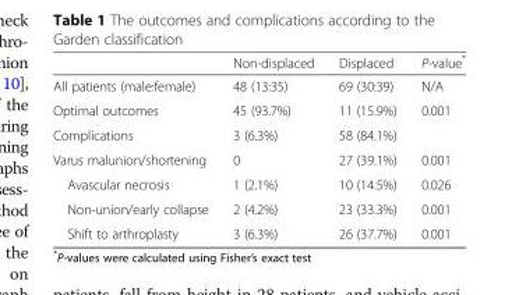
<table><thead><tr><td></td><td>Non-displaced</td><td>Displaced</td><td>P-value*</td></tr></thead><tbody><tr><td>All patients (male:female)</td><td>48 (13:35)</td><td>69 (30:39)</td><td>N/A</td></tr><tr><td>Optimal outcomes</td><td>45 (93.7%)</td><td>11 (15.9%)</td><td>0.001</td></tr><tr><td>Complications</td><td>3 (6.3%)</td><td>58 (84.1%)</td><td></td></tr><tr><td>Varus malunion/shortening</td><td>0</td><td>27 (39.1%)</td><td>0.001</td></tr><tr><td>Avascular necrosis</td><td>1 (2.1%)</td><td>10 (14.5%)</td><td>0.026</td></tr><tr><td>Non-union/early collapse</td><td>2 (4.2%)</td><td>23 (33.3%)</td><td>0.001</td></tr><tr><td>Shift to arthroplasty</td><td>3 (6.3%)</td><td>26 (37.7%)</td><td>0.001</td></tr></tbody></table>